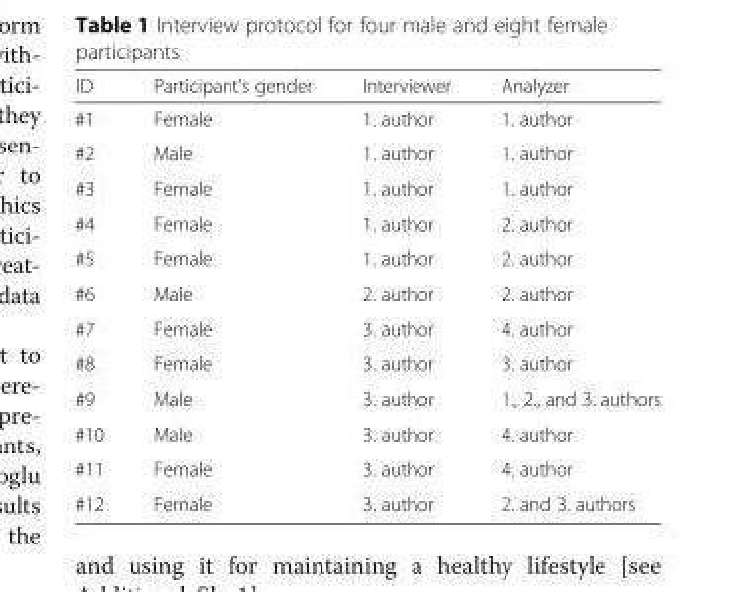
<table><thead><tr><td>ID</td><td>Participant’s gender</td><td>Interviewer</td><td>Analyzer</td></tr></thead><tbody><tr><td>#1</td><td>Female</td><td>1. author</td><td>1. author</td></tr><tr><td>#2</td><td>Male</td><td>1. author</td><td>1. author</td></tr><tr><td>#3</td><td>Female</td><td>1. author</td><td>1. author</td></tr><tr><td>#4</td><td>Female</td><td>1. author</td><td>2. author</td></tr><tr><td>#5</td><td>Female</td><td>1. author</td><td>2. author</td></tr><tr><td>#6</td><td>Male</td><td>2. author</td><td>2. author</td></tr><tr><td>#7</td><td>Female</td><td>3. author</td><td>4. author</td></tr><tr><td>#8</td><td>Female</td><td>3. author</td><td>3. author</td></tr><tr><td>#9</td><td>Male</td><td>3. author</td><td>1., 2., and 3. authors</td></tr><tr><td>#10</td><td>Male</td><td>3. author</td><td>4. author</td></tr><tr><td>#11</td><td>Female</td><td>3. author</td><td>4. author</td></tr><tr><td>#12</td><td>Female</td><td>3. author</td><td>2. and 3. authors</td></tr></tbody></table>